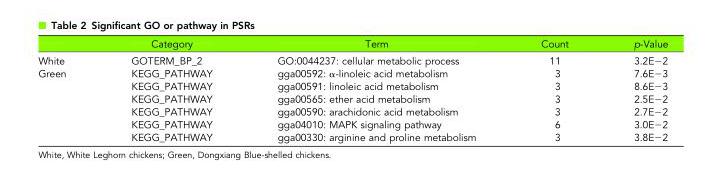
<table><thead><tr><td></td><td>Category</td><td>Term</td><td>Count</td><td>p-Value</td></tr></thead><tbody><tr><td>White</td><td>GOTERM_BP_2</td><td>GO:0044237: cellular metabolic process</td><td>11</td><td>3.2E−2</td></tr><tr><td rowspan="6">Green</td><td>KEGG_PATHWAY</td><td>gga00592: α-linoleic acid metabolism</td><td>3</td><td>7.6E−3</td></tr><tr><td>KEGG_PATHWAY</td><td>gga00591: linoleic acid metabolism</td><td>3</td><td>8.6E−3</td></tr><tr><td>KEGG_PATHWAY</td><td>gga00565: ether acid metabolism</td><td>3</td><td>2.5E−2</td></tr><tr><td>KEGG_PATHWAY</td><td>gga00590: arachidonic acid metabolism</td><td>3</td><td>2.7E−2</td></tr><tr><td>KEGG_PATHWAY</td><td>gga04010: MAPK signaling pathway</td><td>6</td><td>3.0E−2</td></tr><tr><td>KEGG_PATHWAY</td><td>gga00330: arginine and proline metabolism</td><td>3</td><td>3.8E−2</td></tr></tbody></table>